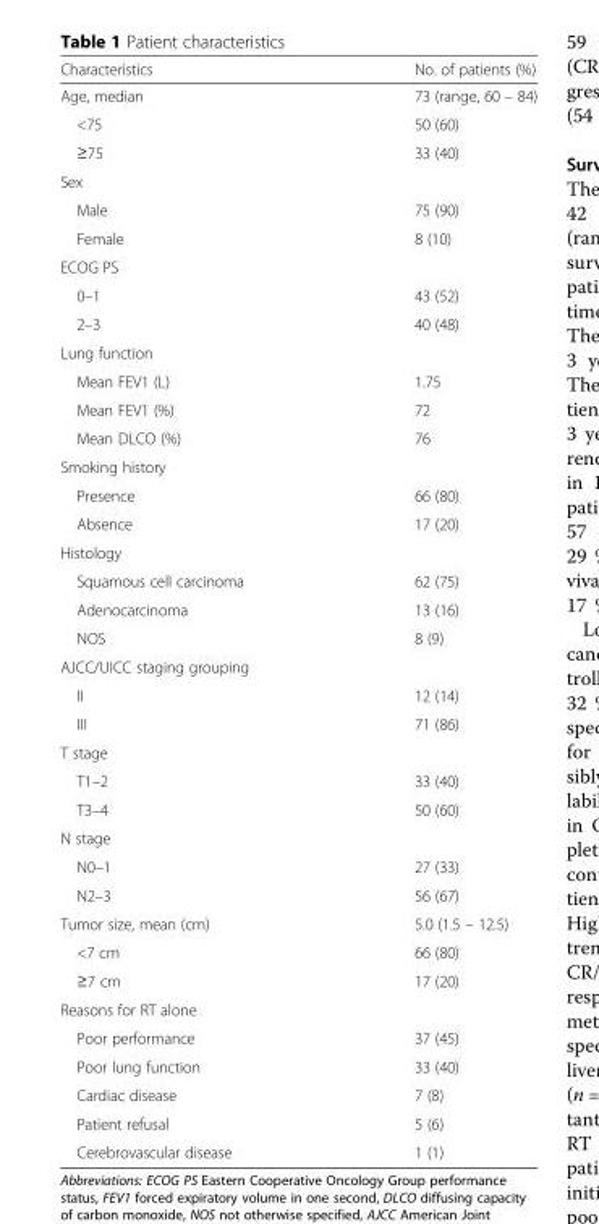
<table><thead><tr><td>Characteristics</td><td>No. of patients (%)</td></tr></thead><tbody><tr><td>Age, median</td><td>73 (range, 60 – 84)</td></tr><tr><td>&lt;75</td><td>50 (60)</td></tr><tr><td>≥75</td><td>33 (40)</td></tr><tr><td colspan="2">Sex</td></tr><tr><td>Male</td><td>75 (90)</td></tr><tr><td>Female</td><td>8 (10)</td></tr><tr><td colspan="2">ECOG PS</td></tr><tr><td>0–1</td><td>43 (52)</td></tr><tr><td>2–3</td><td>40 (48)</td></tr><tr><td colspan="2">Lung function</td></tr><tr><td>Mean FEV1 (L)</td><td>1.75</td></tr><tr><td>Mean FEV1 (%)</td><td>72</td></tr><tr><td>Mean DLCO (%)</td><td>76</td></tr><tr><td colspan="2">Smoking history</td></tr><tr><td>Presence</td><td>66 (80)</td></tr><tr><td>Absence</td><td>17 (20)</td></tr><tr><td colspan="2">Histology</td></tr><tr><td>Squamous cell carcinoma</td><td>62 (75)</td></tr><tr><td>Adenocarcinoma</td><td>13 (16)</td></tr><tr><td>NOS</td><td>8 (9)</td></tr><tr><td colspan="2">AJCC/UICC staging grouping</td></tr><tr><td>II</td><td>12 (14)</td></tr><tr><td>III</td><td>71 (86)</td></tr><tr><td colspan="2">T stage</td></tr><tr><td>T1–2</td><td>33 (40)</td></tr><tr><td>T3–4</td><td>50 (60)</td></tr><tr><td colspan="2">N stage</td></tr><tr><td>N0–1</td><td>27 (33)</td></tr><tr><td>N2–3</td><td>56 (67)</td></tr><tr><td>Tumor size, mean (cm)</td><td>5.0 (1.5 – 12.5)</td></tr><tr><td>&lt;7 cm</td><td>66 (80)</td></tr><tr><td>≥7 cm</td><td>17 (20)</td></tr><tr><td colspan="2">Reasons for RT alone</td></tr><tr><td>Poor performance</td><td>37 (45)</td></tr><tr><td>Poor lung function</td><td>33 (40)</td></tr><tr><td>Cardiac disease</td><td>7 (8)</td></tr><tr><td>Patient refusal</td><td>5 (6)</td></tr><tr><td>Cerebrovascular disease</td><td>1 (1)</td></tr></tbody></table>